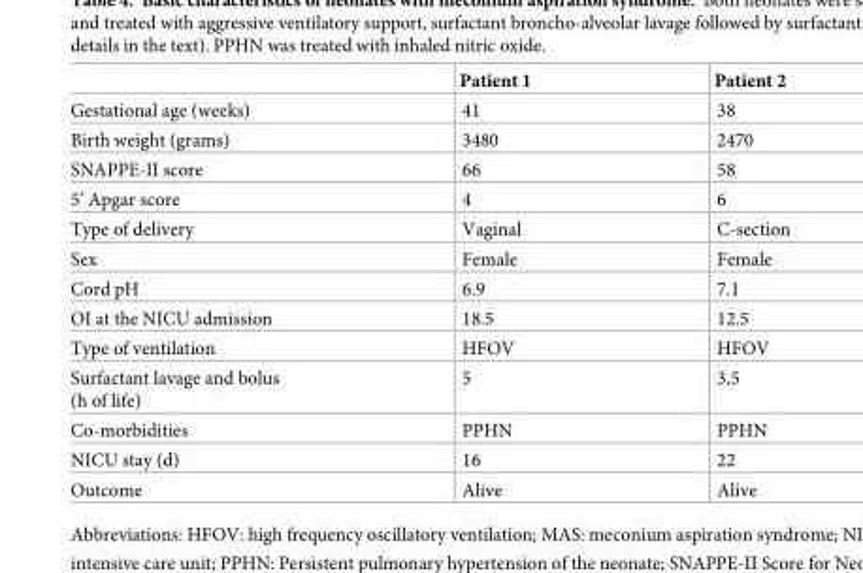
<table><thead><tr><td></td><td>Patient 1</td><td>Patient 2</td></tr></thead><tbody><tr><td>Gestational age (weeks)</td><td>41</td><td>38</td></tr><tr><td>Birth weight (grams)</td><td>3480</td><td>2470</td></tr><tr><td>SNAPPE-II score</td><td>66</td><td>58</td></tr><tr><td>5’ Apgar score</td><td>4</td><td>6</td></tr><tr><td>Type of delivery</td><td>Vaginal</td><td>C-section</td></tr><tr><td>Sex</td><td>Female</td><td>Female</td></tr><tr><td>Cord pH</td><td>6.9</td><td>7.1</td></tr><tr><td>OI at the NICU admission</td><td>18.5</td><td>12.5</td></tr><tr><td>Type of ventilation</td><td>HFOV</td><td>HFOV</td></tr><tr><td>Surfactant lavage and bolus (h of life)</td><td>5</td><td>3,5</td></tr><tr><td>Co-morbidities</td><td>PPHN</td><td>PPHN</td></tr><tr><td>NICU stay (d)</td><td>16</td><td>22</td></tr><tr><td>Outcome</td><td>Alive</td><td>Alive</td></tr></tbody></table>